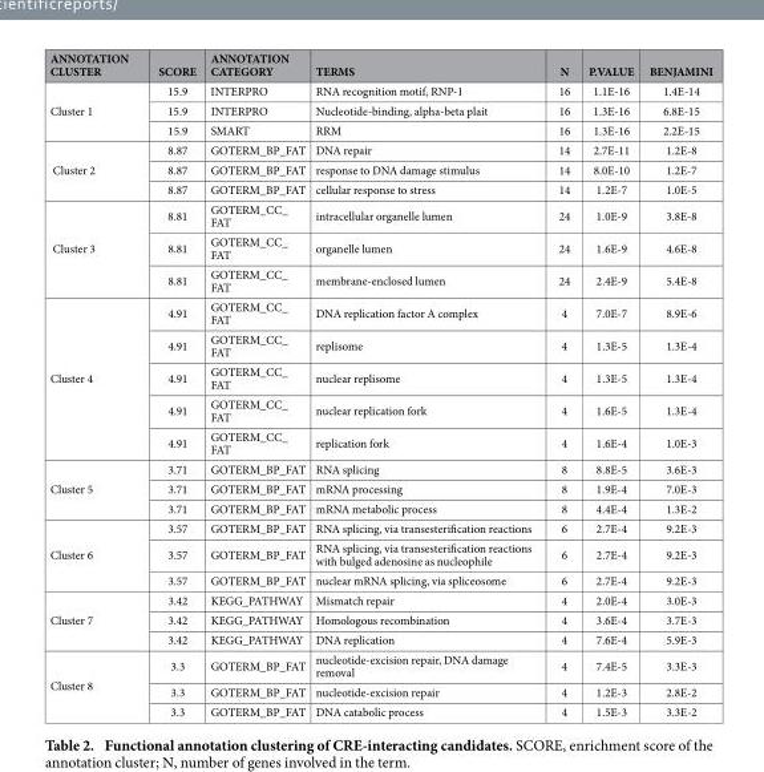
<table><thead><tr><td>ANNOTATION CLUSTER</td><td>SCORE</td><td>ANNOTATION CATEGORY</td><td>TERMS</td><td>N</td><td>P.VALUE</td><td>BENJAMINI</td></tr></thead><tbody><tr><td rowspan="3">Cluster 1</td><td>15.9</td><td>INTERPRO</td><td>RNA recognition motif, RNP-1</td><td>16</td><td>1.1E-16</td><td>1.4E-14</td></tr><tr><td>15.9</td><td>INTERPRO</td><td>Nucleotide-binding, alpha-beta plait</td><td>16</td><td>1.3E-16</td><td>6.8E-15</td></tr><tr><td>15.9</td><td>SMART</td><td>RRM</td><td>16</td><td>1.3E-16</td><td>2.2E-15</td></tr><tr><td rowspan="3">Cluster 2</td><td>8.87</td><td>GOTERM_BP_FAT</td><td>DNA repair</td><td>14</td><td>2.7E-11</td><td>1.2E-8</td></tr><tr><td>8.87</td><td>GOTERM_BP_FAT</td><td>response to DNA damage stimulus</td><td>14</td><td>8.0E-10</td><td>1.2E-7</td></tr><tr><td>8.87</td><td>GOTERM_BP_FAT</td><td>cellular response to stress</td><td>14</td><td>1.2E-7</td><td>1.0E-5</td></tr><tr><td rowspan="3">Cluster 3</td><td>8.81</td><td>GOTERM_CC_ FAT</td><td>intracellular organelle lumen</td><td>24</td><td>1.0E-9</td><td>3.8E-8</td></tr><tr><td>8.81</td><td>GOTERM_CC_ FAT</td><td>organelle lumen</td><td>24</td><td>1.6E-9</td><td>4.6E-8</td></tr><tr><td>8.81</td><td>GOTERM_CC_ FAT</td><td>membrane-enclosed lumen</td><td>24</td><td>2.4E-9</td><td>5.4E-8</td></tr><tr><td rowspan="5">Cluster 4</td><td>4.91</td><td>GOTERM_CC_ FAT</td><td>DNA replication factor A complex</td><td>4</td><td>7.0E-7</td><td>8.9E-6</td></tr><tr><td>4.91</td><td>GOTERM_CC_ FAT</td><td>replisome</td><td>4</td><td>1.3E-5</td><td>1.3E-4</td></tr><tr><td>4.91</td><td>GOTERM_CC_ FAT</td><td>nuclear replisome</td><td>4</td><td>1.3E-5</td><td>1.3E-4</td></tr><tr><td>4.91</td><td>GOTERM_CC_ FAT</td><td>nuclear replication fork</td><td>4</td><td>1.6E-5</td><td>1.3E-4</td></tr><tr><td>4.91</td><td>GOTERM_CC_ FAT</td><td>replication fork</td><td>4</td><td>1.6E-4</td><td>1.0E-3</td></tr><tr><td rowspan="3">Cluster 5</td><td>3.71</td><td>GOTERM_BP_FAT</td><td>RNA splicing</td><td>8</td><td>8.8E-5</td><td>3.6E-3</td></tr><tr><td>3.71</td><td>GOTERM_BP_FAT</td><td>mRNA processing</td><td>8</td><td>1.9E-4</td><td>7.0E-3</td></tr><tr><td>3.71</td><td>GOTERM_BP_FAT</td><td>mRNA metabolic process</td><td>8</td><td>4.4E-4</td><td>1.3E-2</td></tr><tr><td rowspan="3">Cluster 6</td><td>3.57</td><td>GOTERM_BP_FAT</td><td>RNA splicing, via transesterification reactions</td><td>6</td><td>2.7E-4</td><td>9.2E-3</td></tr><tr><td>3.57</td><td>GOTERM_BP_FAT</td><td>RNA splicing, via transesterification reactions with bulged adenosine as nucleophile</td><td>6</td><td>2.7E-4</td><td>9.2E-3</td></tr><tr><td>3.57</td><td>GOTERM_BP_FAT</td><td>nuclear mRNA splicing, via spliceosome</td><td>6</td><td>2.7E-4</td><td>9.2E-3</td></tr><tr><td rowspan="3">Cluster 7</td><td>3.42</td><td>KEGG_PATHWAY</td><td>Mismatch repair</td><td>4</td><td>2.0E-4</td><td>3.0E-3</td></tr><tr><td>3.42</td><td>KEGG_PATHWAY</td><td>Homologous recombination</td><td>4</td><td>3.6E-4</td><td>3.7E-3</td></tr><tr><td>3.42</td><td>KEGG_PATHWAY</td><td>DNA replication</td><td>4</td><td>7.6E-4</td><td>5.9E-3</td></tr><tr><td rowspan="3">Cluster 8</td><td>3.3</td><td>GOTERM_BP_FAT</td><td>nucleotide-excision repair, DNA damage removal</td><td>4</td><td>7.4E-5</td><td>3.3E-3</td></tr><tr><td>3.3</td><td>GOTERM_BP_FAT</td><td>nucleotide-excision repair</td><td>4</td><td>1.2E-3</td><td>2.8E-2</td></tr><tr><td>3.3</td><td>GOTERM_BP_FAT</td><td>DNA catabolic process</td><td>4</td><td>1.5E-3</td><td>3.3E-2</td></tr></tbody></table>